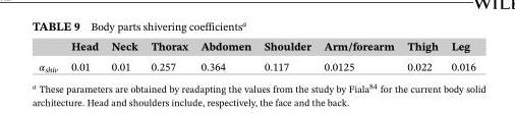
<table><thead><tr><td></td><td>Head</td><td>Neck</td><td>Thorax</td><td>Abdomen</td><td>Shoulder</td><td>Arm/forearm</td><td>Thigh</td><td>Leg</td></tr></thead><tbody><tr><td>𝛼<sub>shiv</sub></td><td>0.01</td><td>0.01</td><td>0.257</td><td>0.364</td><td>0.117</td><td>0.0125</td><td>0.022</td><td>0.016</td></tr></tbody></table>